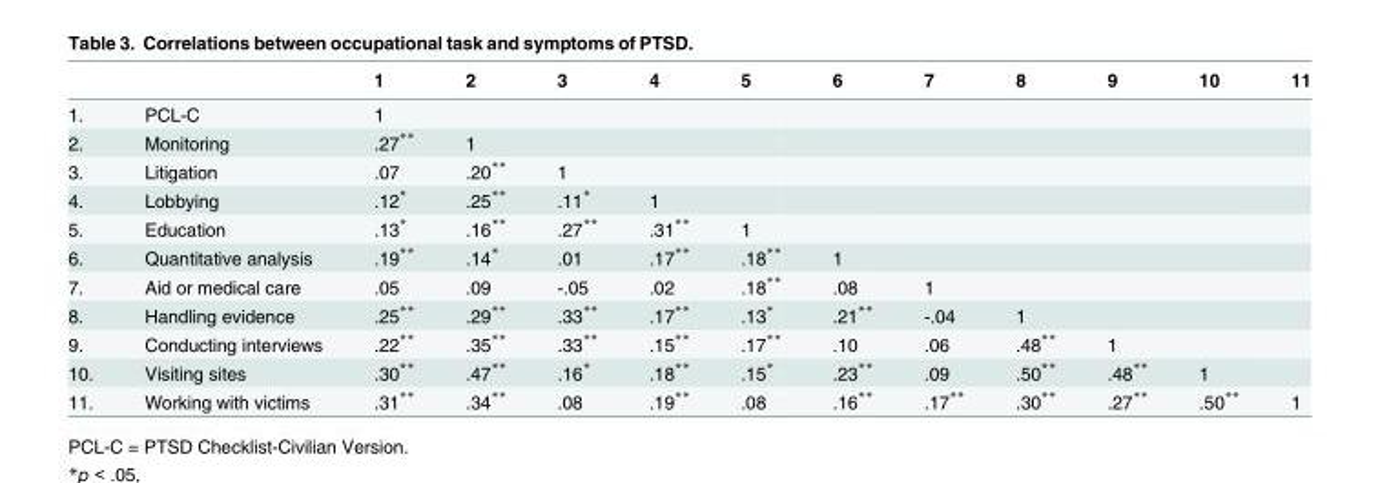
<table><thead><tr><td></td><td></td><td>1</td><td>2</td><td>3</td><td>4</td><td>5</td><td>6</td><td>7</td><td>8</td><td>9</td><td>10</td><td>11</td></tr></thead><tbody><tr><td>1.</td><td>PCL-C</td><td>1</td><td></td><td></td><td></td><td></td><td></td><td></td><td></td><td></td><td></td><td></td></tr><tr><td>2.</td><td>Monitoring</td><td>.27**</td><td>1</td><td></td><td></td><td></td><td></td><td></td><td></td><td></td><td></td><td></td></tr><tr><td>3.</td><td>Litigation</td><td>.07</td><td>.20**</td><td>1</td><td></td><td></td><td></td><td></td><td></td><td></td><td></td><td></td></tr><tr><td>4.</td><td>Lobbying</td><td>.12*</td><td>.25**</td><td>.11*</td><td>1</td><td></td><td></td><td></td><td></td><td></td><td></td><td></td></tr><tr><td>5.</td><td>Education</td><td>.13*</td><td>.16**</td><td>.27**</td><td>.31**</td><td>1</td><td></td><td></td><td></td><td></td><td></td><td></td></tr><tr><td>6.</td><td>Quantitative analysis</td><td>.19**</td><td>.14*</td><td>.01</td><td>.17**</td><td>.18**</td><td>1</td><td></td><td></td><td></td><td></td><td></td></tr><tr><td>7.</td><td>Aid or medical care</td><td>.05</td><td>.09</td><td>-.05</td><td>.02</td><td>.18**</td><td>.08</td><td>1</td><td></td><td></td><td></td><td></td></tr><tr><td>8.</td><td>Handling evidence</td><td>.25**</td><td>.29**</td><td>.33**</td><td>.17**</td><td>.13*</td><td>.21**</td><td>-.04</td><td>1</td><td></td><td></td><td></td></tr><tr><td>9.</td><td>Conducting interviews</td><td>.22**</td><td>.35**</td><td>.33**</td><td>.15**</td><td>.17**</td><td>.10</td><td>.06</td><td>.48**</td><td>1</td><td></td><td></td></tr><tr><td>10.</td><td>Visiting sites</td><td>.30**</td><td>.47**</td><td>.16*</td><td>.18**</td><td>.15*</td><td>.23**</td><td>.09</td><td>.50**</td><td>.48**</td><td>1</td><td></td></tr><tr><td>11.</td><td>Working with victims</td><td>.31**</td><td>.34**</td><td>.08</td><td>.19**</td><td>.08</td><td>.16**</td><td>.17**</td><td>.30**</td><td>.27**</td><td>.50**</td><td>1</td></tr></tbody></table>